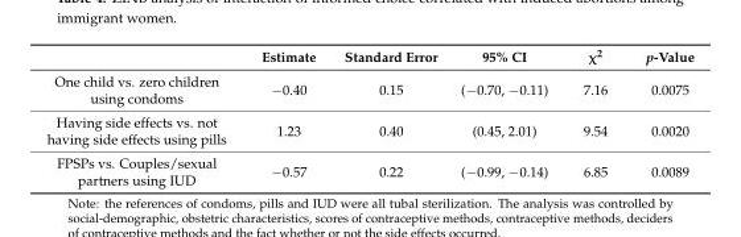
<table><thead><tr><td></td><td>Estimate</td><td>Standard Error</td><td>95% CI</td><td>χ<sup>2</sup></td><td>p-Value</td></tr></thead><tbody><tr><td>One child vs. zero children using condoms</td><td>−0.40</td><td>0.15</td><td>(−0.70, −0.11)</td><td>7.16</td><td>0.0075</td></tr><tr><td>Having side effects vs. not having side effects using pills</td><td>1.23</td><td>0.40</td><td>(0.45, 2.01)</td><td>9.54</td><td>0.0020</td></tr><tr><td>FPSPs vs. Couples/sexual partners using IUD</td><td>−0.57</td><td>0.22</td><td>(−0.99, −0.14)</td><td>6.85</td><td>0.0089</td></tr></tbody></table>